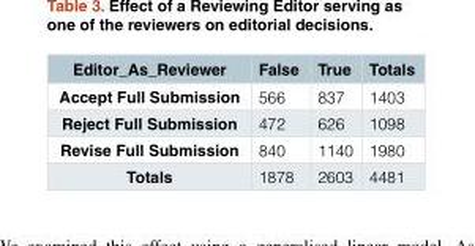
<table><thead><tr><td>Editor_As_Reviewer</td><td>False</td><td>True</td><td>Totals</td></tr></thead><tbody><tr><td>Accept Full Submission</td><td>566</td><td>837</td><td>1403</td></tr><tr><td>Reject Full Submission</td><td>472</td><td>626</td><td>1098</td></tr><tr><td>Revise Full Submission</td><td>840</td><td>1140</td><td>1980</td></tr><tr><td>Totals</td><td>1878</td><td>2603</td><td>4481</td></tr></tbody></table>